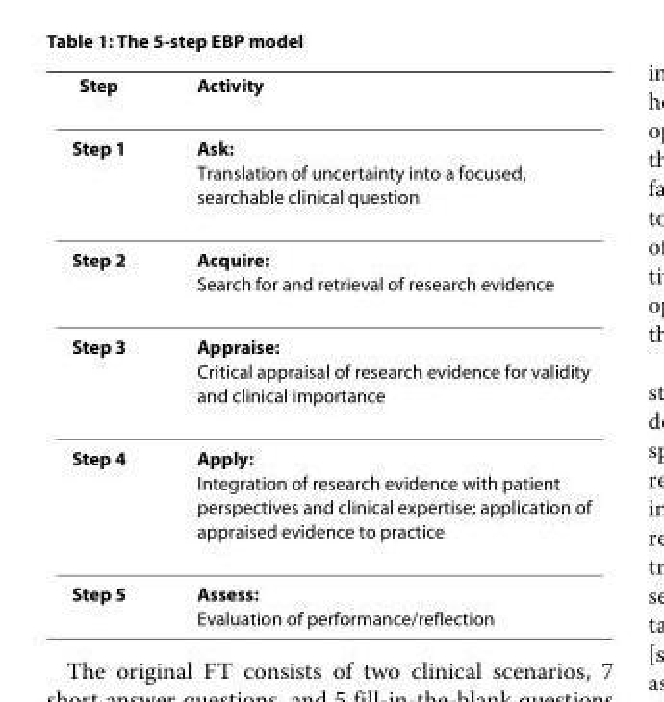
<table><thead><tr><td>Step</td><td>Activity</td></tr></thead><tbody><tr><td>Step 1</td><td>Ask: Translation of uncertainty into a focused, searchable clinical question</td></tr><tr><td>Step 2</td><td>Acquire: Search for and retrieval of research evidence</td></tr><tr><td>Step 3</td><td>Appraise: Critical appraisal of research evidence for validity and clinical importance</td></tr><tr><td>Step 4</td><td>Apply: Integration of research evidence with patient perspectives and clinical expertise; application of appraised evidence to practice</td></tr><tr><td>Step 5</td><td>Assess: Evaluation of performance/reflection</td></tr></tbody></table>